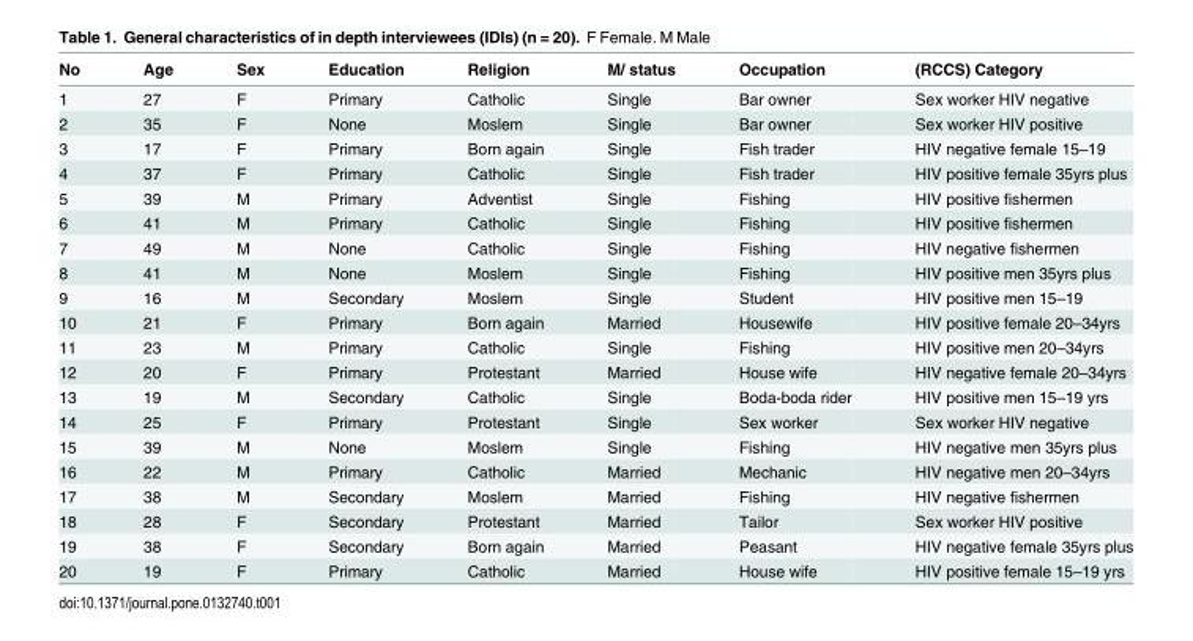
<table><thead><tr><td>No</td><td>Age</td><td>Sex</td><td>Education</td><td>Religion</td><td>M/ status</td><td>Occupation</td><td>(RCCS) Category</td></tr></thead><tbody><tr><td>1</td><td>27</td><td>F</td><td>Primary</td><td>Catholic</td><td>Single</td><td>Bar owner</td><td>Sex worker HIV negative</td></tr><tr><td>2</td><td>35</td><td>F</td><td>None</td><td>Moslem</td><td>Single</td><td>Bar owner</td><td>Sex worker HIV positive</td></tr><tr><td>3</td><td>17</td><td>F</td><td>Primary</td><td>Born again</td><td>Single</td><td>Fish trader</td><td>HIV negative female 15–19</td></tr><tr><td>4</td><td>37</td><td>F</td><td>Primary</td><td>Catholic</td><td>Single</td><td>Fish trader</td><td>HIV positive female 35yrs plus</td></tr><tr><td>5</td><td>39</td><td>M</td><td>Primary</td><td>Adventist</td><td>Single</td><td>Fishing</td><td>HIV positive fishermen</td></tr><tr><td>6</td><td>41</td><td>M</td><td>Primary</td><td>Catholic</td><td>Single</td><td>Fishing</td><td>HIV positive fishermen</td></tr><tr><td>7</td><td>49</td><td>M</td><td>None</td><td>Catholic</td><td>Single</td><td>Fishing</td><td>HIV negative fishermen</td></tr><tr><td>8</td><td>41</td><td>M</td><td>None</td><td>Moslem</td><td>Single</td><td>Fishing</td><td>HIV positive men 35yrs plus</td></tr><tr><td>9</td><td>16</td><td>M</td><td>Secondary</td><td>Moslem</td><td>Single</td><td>Student</td><td>HIV positive men 15–19</td></tr><tr><td>10</td><td>21</td><td>F</td><td>Primary</td><td>Born again</td><td>Married</td><td>Housewife</td><td>HIV positive female 20–34yrs</td></tr><tr><td>11</td><td>23</td><td>M</td><td>Primary</td><td>Catholic</td><td>Single</td><td>Fishing</td><td>HIV positive men 20–34yrs</td></tr><tr><td>12</td><td>20</td><td>F</td><td>Primary</td><td>Protestant</td><td>Married</td><td>House wife</td><td>HIV negative female 20–34yrs</td></tr><tr><td>13</td><td>19</td><td>M</td><td>Secondary</td><td>Catholic</td><td>Single</td><td>Boda-boda rider</td><td>HIV positive men 15–19 yrs</td></tr><tr><td>14</td><td>25</td><td>F</td><td>Primary</td><td>Protestant</td><td>Single</td><td>Sex worker</td><td>Sex worker HIV negative</td></tr><tr><td>15</td><td>39</td><td>M</td><td>None</td><td>Moslem</td><td>Single</td><td>Fishing</td><td>HIV negative men 35yrs plus</td></tr><tr><td>16</td><td>22</td><td>M</td><td>Primary</td><td>Catholic</td><td>Married</td><td>Mechanic</td><td>HIV negative men 20–34yrs</td></tr><tr><td>17</td><td>38</td><td>M</td><td>Secondary</td><td>Moslem</td><td>Married</td><td>Fishing</td><td>HIV negative fishermen</td></tr><tr><td>18</td><td>28</td><td>F</td><td>Secondary</td><td>Protestant</td><td>Married</td><td>Tailor</td><td>Sex worker HIV positive</td></tr><tr><td>19</td><td>38</td><td>F</td><td>Secondary</td><td>Born again</td><td>Married</td><td>Peasant</td><td>HIV negative female 35yrs plus</td></tr><tr><td>20</td><td>19</td><td>F</td><td>Primary</td><td>Catholic</td><td>Married</td><td>House wife</td><td>HIV positive female 15–19 yrs</td></tr></tbody></table>